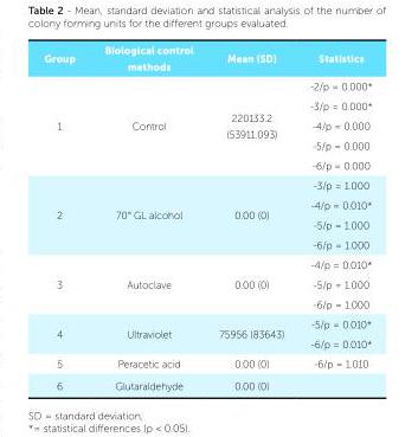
<table><thead><tr><td>Group</td><td>Biological control methods</td><td>Mean (SD)</td><td>Statistics</td></tr></thead><tbody><tr><td rowspan="5">1</td><td rowspan="5">Control</td><td rowspan="5">220133.2 (53911.093)</td><td>-2/p = 0.000*</td></tr><tr><td>-3/p = 0.000*</td></tr><tr><td>-4/p = 0.000</td></tr><tr><td>-5/p = 0.000</td></tr><tr><td>-6/p = 0.000</td></tr><tr><td rowspan="4">2</td><td rowspan="4">70° GL alcohol</td><td rowspan="4">0.00 (0)</td><td>-3/p = 1.000</td></tr><tr><td>-4/p = 0.010*</td></tr><tr><td>-5/p = 1.000</td></tr><tr><td>-6/p = 1.000</td></tr><tr><td rowspan="3">3</td><td rowspan="3">Autoclave</td><td rowspan="3">0.00 (0)</td><td>-4/p = 0.010*</td></tr><tr><td>-5/p = 1.000</td></tr><tr><td>-6/p = 1.000</td></tr><tr><td rowspan="2">4</td><td rowspan="2">Ultraviolet</td><td rowspan="2">75956 (83643)</td><td>-5/p = 0.010*</td></tr><tr><td>-6/p = 0.010*</td></tr><tr><td>5</td><td>Peracetic acid</td><td>0.00 (0)</td><td>-6/p = 1.010</td></tr><tr><td>6</td><td>Glutaraldehyde</td><td>0.00 (0)</td><td></td></tr></tbody></table>